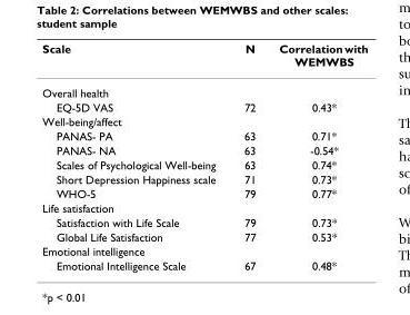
<table><thead><tr><td>Scale</td><td>N</td><td>Correlation with WEMWBS</td></tr></thead><tbody><tr><td colspan="3">Overall health</td></tr><tr><td>EQ-5D VAS</td><td>72</td><td>0.43*</td></tr><tr><td colspan="3">Well-being/affect</td></tr><tr><td>PANAS- PA</td><td>63</td><td>0.71*</td></tr><tr><td>PANAS- NA</td><td>63</td><td>-0.54*</td></tr><tr><td>Scales of Psychological Well-being</td><td>63</td><td>0.74*</td></tr><tr><td>Short Depression Happiness scale</td><td>71</td><td>0.73*</td></tr><tr><td>WHO-5</td><td>79</td><td>0.77*</td></tr><tr><td colspan="3">Life satisfaction</td></tr><tr><td>Satisfaction with Life Scale</td><td>79</td><td>0.73*</td></tr><tr><td>Global Life Satisfaction</td><td>77</td><td>0.53*</td></tr><tr><td colspan="3">Emotional intelligence</td></tr><tr><td>Emotional Intelligence Scale</td><td>67</td><td>0.48*</td></tr></tbody></table>